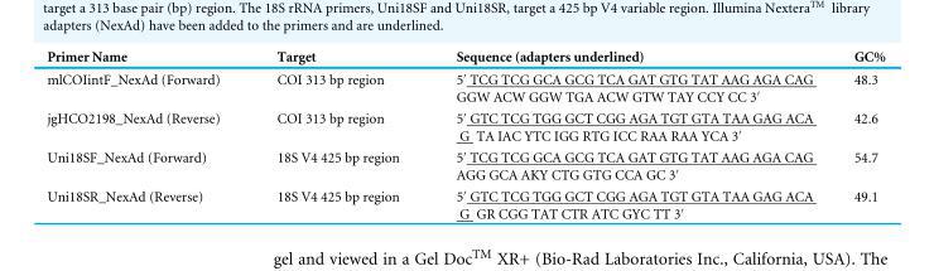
<table><thead><tr><td>Primer Name</td><td>Target</td><td>Sequence (adapters underlined)</td><td>GC%</td></tr></thead><tbody><tr><td>mlCOIintF_NexAd (Forward)</td><td>COI 313 bp region</td><td>5′ TCG TCG GCA GCG TCA GAT GTG TAT AAG AGA CAG GGW ACW GGW TGA ACW GTW TAY CCY CC 3′</td><td>48.3</td></tr><tr><td>jgHCO2198_NexAd (Reverse)</td><td>COI 313 bp region</td><td>5′ GTC TCG TGG GCT CGG AGA TGT GTA TAA GAG ACA G TA IAC YTC IGG RTG ICC RAA RAA YCA 3′</td><td>42.6</td></tr><tr><td>Uni18SF_NexAd (Forward)</td><td>18S V4 425 bp region</td><td>5′ TCG TCG GCA GCG TCA GAT GTG TAT AAG AGA CAG AGG GCA AKY CTG GTG CCA GC 3′</td><td>54.7</td></tr><tr><td>Uni18SR_NexAd (Reverse)</td><td>18S V4 425 bp region</td><td>5′ GTC TCG TGG GCT CGG AGA TGT GTA TAA GAG ACA G GR CGG TAT CTR ATC GYC TT 3′</td><td>49.1</td></tr></tbody></table>